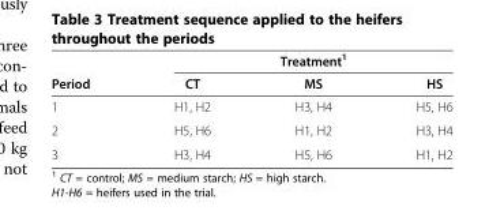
<table><thead><tr><td rowspan="2">Period</td><td colspan="3">Treatment<sup>1</sup></td></tr><tr><td>CT</td><td>MS</td><td>HS</td></tr></thead><tbody><tr><td>1</td><td>H1, H2</td><td>H3, H4</td><td>H5, H6</td></tr><tr><td>2</td><td>H5, H6</td><td>H1, H2</td><td>H3, H4</td></tr><tr><td>3</td><td>H3, H4</td><td>H5, H6</td><td>H1, H2</td></tr></tbody></table>